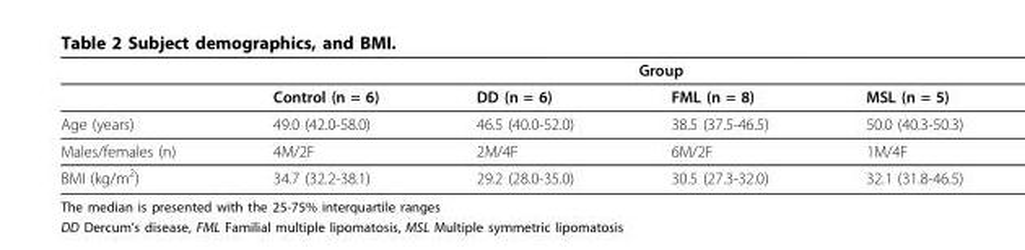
<table><thead><tr><td rowspan="2"></td><td colspan="4">Group</td></tr><tr><td>Control (n = 6)</td><td>DD (n = 6)</td><td>FML (n = 8)</td><td>MSL (n = 5)</td></tr></thead><tbody><tr><td>Age (years)</td><td>49.0 (42.0-58.0)</td><td>46.5 (40.0-52.0)</td><td>38.5 (37.5-46.5)</td><td>50.0 (40.3-50.3)</td></tr><tr><td>Males/females (n)</td><td>4M/2F</td><td>2M/4F</td><td>6M/2F</td><td>1M/4F</td></tr><tr><td>BMI (kg/m<sup>2</sup>)</td><td>34.7 (32.2-38.1)</td><td>29.2 (28.0-35.0)</td><td>30.5 (27.3-32.0)</td><td>32.1 (31.8-46.5)</td></tr></tbody></table>